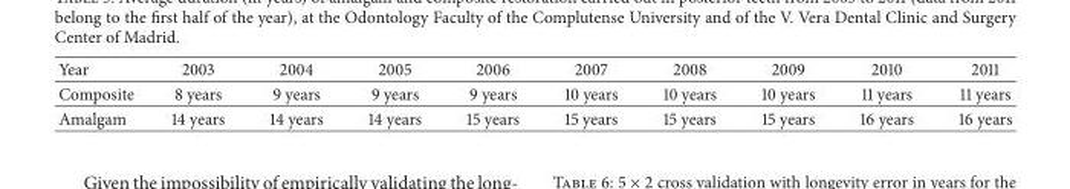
<table><tbody><tr><td>Year</td><td>2003</td><td>2004</td><td>2005</td><td>2006</td><td>2007</td><td>2008</td><td>2009</td><td>2010</td><td>2011</td></tr><tr><td>Composite</td><td>8 years</td><td>9 years</td><td>9 years</td><td>9 years</td><td>10 years</td><td>10 years</td><td>10 years</td><td>11 years</td><td>11 years</td></tr><tr><td>Amalgam</td><td>14 years</td><td>14 years</td><td>14 years</td><td>15 years</td><td>15 years</td><td>15 years</td><td>15 years</td><td>16 years</td><td>16 years</td></tr></tbody></table>